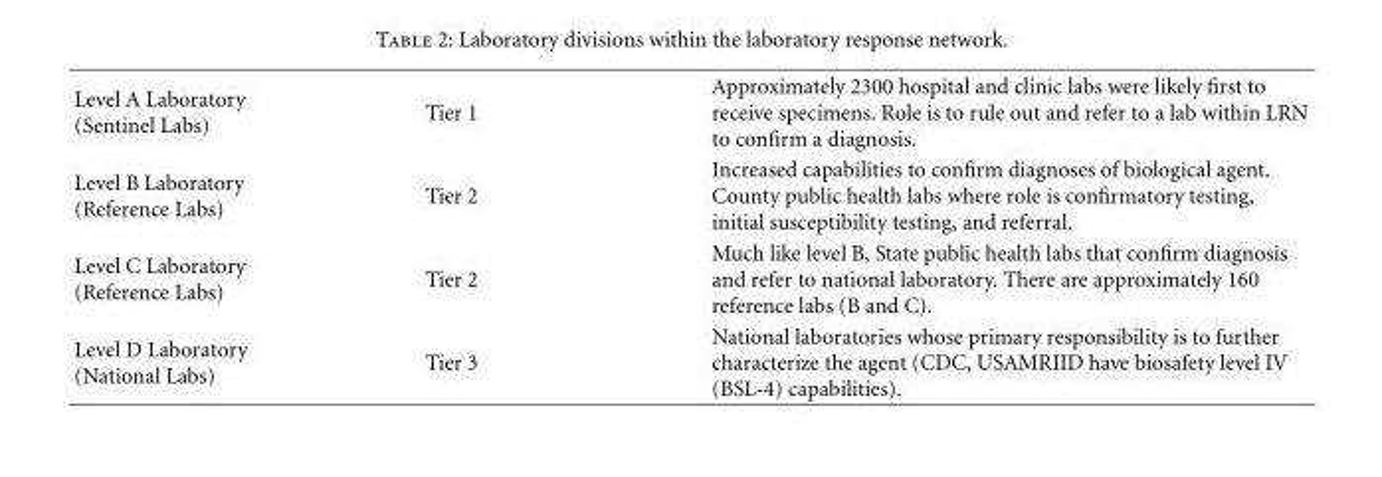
<table><tbody><tr><td>Level A Laboratory (Sentinel Labs)</td><td>Tier 1</td><td>Approximately 2300 hospital and clinic labs were likely first to receive specimens. Role is to rule out and refer to a lab within LRN to confirm a diagnosis.</td></tr><tr><td>Level B Laboratory (Reference Labs)</td><td>Tier 2</td><td>Increased capabilities to confirm diagnoses of biological agent. County public health labs where role is confirmatory testing, initial susceptibility testing, and referral.</td></tr><tr><td>Level C Laboratory (Reference Labs)</td><td>Tier 2</td><td>Much like level B, State public health labs that confirm diagnosis and refer to national laboratory. There are approximately 160 reference labs (B and C).</td></tr><tr><td>Level D Laboratory (National Labs)</td><td>Tier 3</td><td>National laboratories whose primary responsibility is to further characterize the agent (CDC, USAMRIID have biosafety level IV (BSL-4) capabilities).</td></tr></tbody></table>